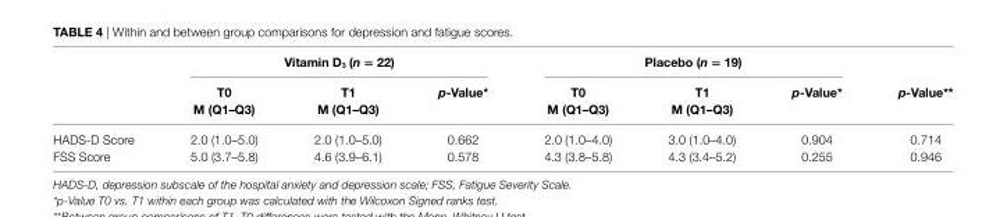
<table><thead><tr><td rowspan="2"></td><td colspan="3">Vitamin D<sub>3</sub> (n = 22)</td><td colspan="3">Placebo (n = 19)</td><td rowspan="2">p-Value**</td></tr><tr><td>T0 M (Q1–Q3)</td><td>T1 M (Q1–Q3)</td><td>p-Value*</td><td>T0 M (Q1–Q3)</td><td>T1 M (Q1–Q3)</td><td>p-Value*</td></tr></thead><tbody><tr><td>HADS-D Score</td><td>2.0 (1.0–5.0)</td><td>2.0 (1.0–5.0)</td><td>0.662</td><td>2.0 (1.0–4.0)</td><td>3.0 (1.0–4.0)</td><td>0.904</td><td>0.714</td></tr><tr><td>FSS Score</td><td>5.0 (3.7–5.8)</td><td>4.6 (3.9–6.1)</td><td>0.578</td><td>4.3 (3.8–5.8)</td><td>4.3 (3.4–5.2)</td><td>0.255</td><td>0.946</td></tr></tbody></table>